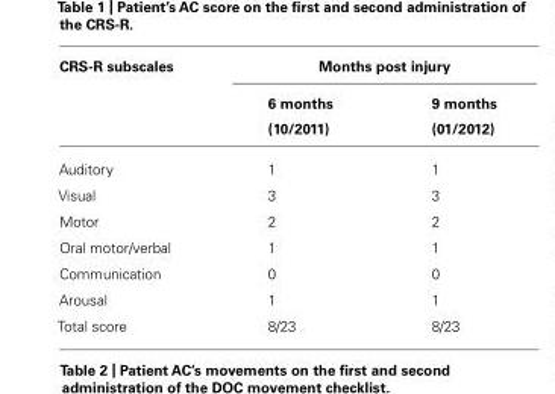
<table><thead><tr><td rowspan="2">CRS-R subscales</td><td colspan="2">Months post injury</td></tr><tr><td>6 months (10/2011)</td><td>9 months (01/2012)</td></tr></thead><tbody><tr><td>Auditory</td><td>1</td><td>1</td></tr><tr><td>Visual</td><td>3</td><td>3</td></tr><tr><td>Motor</td><td>2</td><td>2</td></tr><tr><td>Oral motor/verbal</td><td>1</td><td>1</td></tr><tr><td>Communication</td><td>0</td><td>0</td></tr><tr><td>Arousal</td><td>1</td><td>1</td></tr><tr><td>Total score</td><td>8/23</td><td>8/23</td></tr></tbody></table>